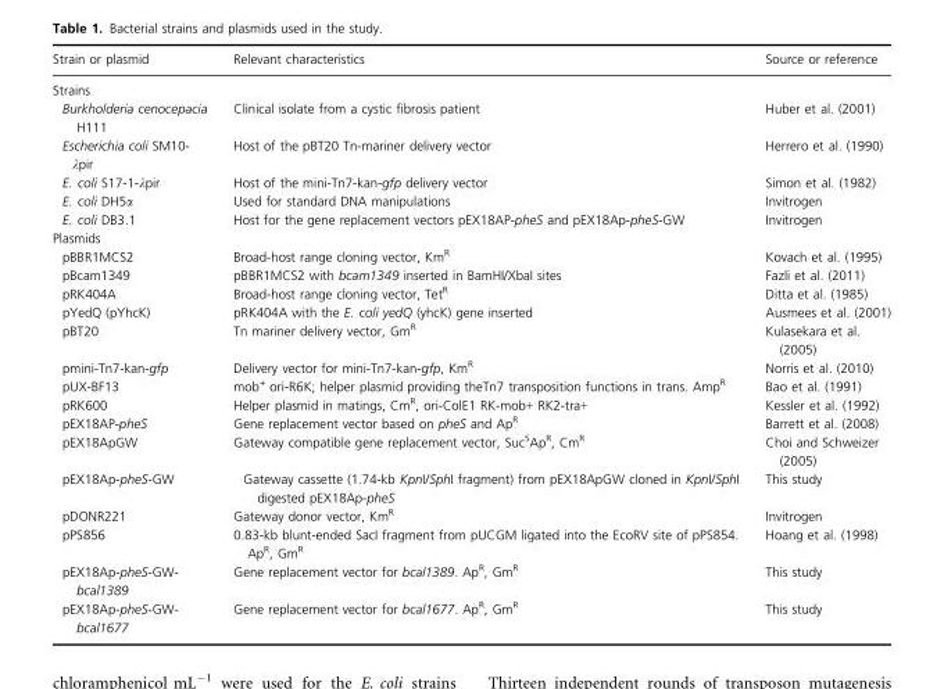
<table><thead><tr><td>Strain or plasmid</td><td>Relevant characteristics</td><td>Source or reference</td></tr></thead><tbody><tr><td colspan="3">Strains</td></tr><tr><td>Burkholderia cenocepacia H111</td><td>Clinical isolate from a cystic fibrosis patient</td><td>Huber et al. (2001)</td></tr><tr><td>Escherichia coli SM10- λpir</td><td>Host of the pBT20 Tn-mariner delivery vector</td><td>Herrero et al. (1990)</td></tr><tr><td>E. coli S17-1-λpir</td><td>Host of the mini-Tn7-kan-gfp delivery vector</td><td>Simon et al. (1982)</td></tr><tr><td>E. coli DH5α</td><td>Used for standard DNA manipulations</td><td>Invitrogen</td></tr><tr><td>E. coli DB3.1</td><td>Host for the gene replacement vectors pEX18AP-pheS and pEX18Ap-pheS-GW</td><td>Invitrogen</td></tr><tr><td colspan="3">Plasmids</td></tr><tr><td>pBBR1MCS2</td><td>Broad-host range cloning vector, Km<sup>R</sup></td><td>Kovach et al. (1995)</td></tr><tr><td>pBcam1349</td><td>pBBR1MCS2 with bcam1349 inserted in BamHI/XbaI sites</td><td>Fazli et al. (2011)</td></tr><tr><td>pRK404A</td><td>Broad-host range cloning vector, Tet<sup>R</sup></td><td>Ditta et al. (1985)</td></tr><tr><td>pYedQ (pYhcK)</td><td>pRK404A with the E. coli yedQ (yhcK) gene inserted</td><td>Ausmees et al. (2001)</td></tr><tr><td>pBT20</td><td>Tn mariner delivery vector, Gm<sup>R</sup></td><td>Kulasekara et al. (2005)</td></tr><tr><td>pmini-Tn7-kan-gfp</td><td>Delivery vector for mini-Tn7-kan-gfp, Km<sup>R</sup></td><td>Norris et al. (2010)</td></tr><tr><td>pUX-BF13</td><td>mob<sup>+</sup> ori-R6K; helper plasmid providing theTn7 transposition functions in trans. Amp<sup>R</sup></td><td>Bao et al. (1991)</td></tr><tr><td>pRK600</td><td>Helper plasmid in matings, Cm<sup>R</sup>, ori-ColE1 RK-mob+ RK2-tra+</td><td>Kessler et al. (1992)</td></tr><tr><td>pEX18AP-pheS</td><td>Gene replacement vector based on pheS and Ap<sup>R</sup></td><td>Barrett et al. (2008)</td></tr><tr><td>pEX18ApGW</td><td>Gateway compatible gene replacement vector, Suc<sup>S</sup>Ap<sup>R</sup>, Cm<sup>R</sup></td><td>Choi and Schweizer (2005)</td></tr><tr><td>pEX18Ap-pheS-GW</td><td>Gateway cassette (1.74-kb KpnI/SphI fragment) from pEX18ApGW cloned in KpnI/SphI digested pEX18Ap-pheS</td><td>This study</td></tr><tr><td>pDONR221</td><td>Gateway donor vector, Km<sup>R</sup></td><td>Invitrogen</td></tr><tr><td>pPS856</td><td>0.83-kb blunt-ended SacI fragment from pUCGM ligated into the EcoRV site of pPS854. Ap<sup>R</sup>, Gm<sup>R</sup></td><td>Hoang et al. (1998)</td></tr><tr><td>pEX18Ap-pheS-GW- bcal1389</td><td>Gene replacement vector for bcal1389. Ap<sup>R</sup>, Gm<sup>R</sup></td><td>This study</td></tr><tr><td>pEX18Ap-pheS-GW- bcal1677</td><td>Gene replacement vector for bcal1677. Ap<sup>R</sup>, Gm<sup>R</sup></td><td>This study</td></tr></tbody></table>